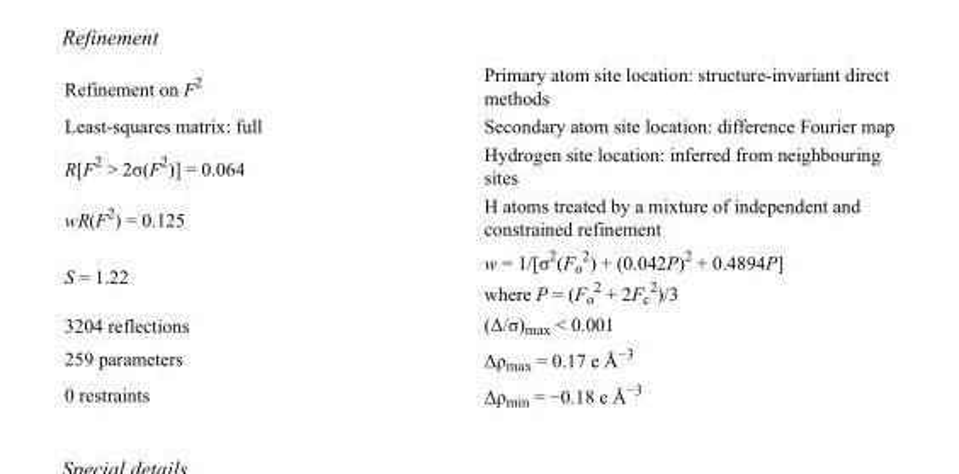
<table><tbody><tr><td>Refinement on F<sup>2</sup></td><td>Primary atom site location: structure-invariant direct methods</td></tr><tr><td>Least-squares matrix: full</td><td>Secondary atom site location: difference Fourier map</td></tr><tr><td>R[F<sup>2</sup> &gt; 2σ(F<sup>2</sup>)] = 0.064</td><td>Hydrogen site location: inferred from neighbouring sites</td></tr><tr><td>wR(F<sup>2</sup>) = 0.125</td><td>H atoms treated by a mixture of independent and constrained refinement</td></tr><tr><td>S = 1.22</td><td>w = 1/[σ<sup>2</sup>(F<sub>o</sub> <sup>2</sup>) + (0.042P)<sup>2</sup> + 0.4894P] where P = (F<sub>o</sub> <sup>2</sup> + 2F<sub>c</sub> <sup>2</sup>)/3</td></tr><tr><td>3204 reflections</td><td>(Δ/σ)<sub>max</sub> &lt; 0.001</td></tr><tr><td>259 parameters</td><td>Δρ<sub>max</sub> = 0.17 e Å<sup>−3</sup></td></tr><tr><td>0 restraints</td><td>Δρ<sub>min</sub> = −0.18 e Å<sup>−3</sup></td></tr></tbody></table>